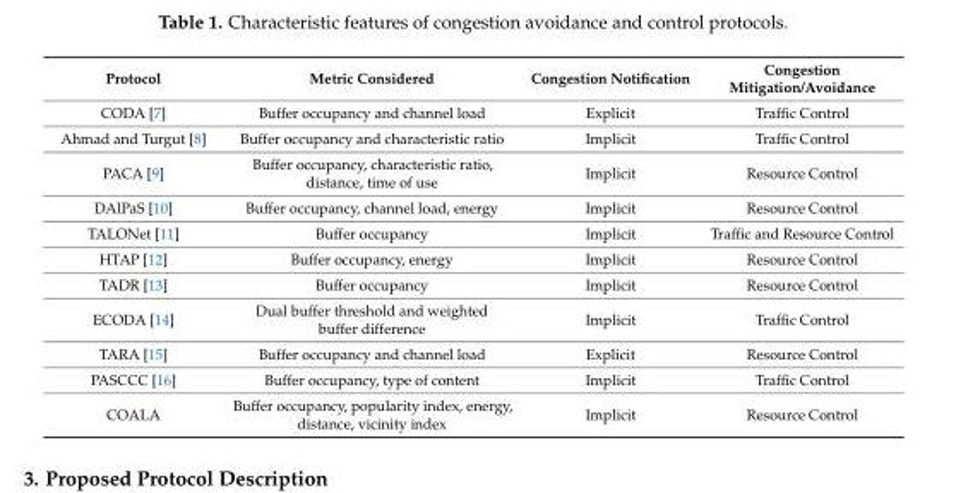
<table><thead><tr><td>Protocol</td><td>Metric Considered</td><td>Congestion Notification</td><td>Congestion Mitigation/Avoidance</td></tr></thead><tbody><tr><td>CODA [7]</td><td>Buffer occupancy and channel load</td><td>Explicit</td><td>Traffic Control</td></tr><tr><td>Ahmad and Turgut [8]</td><td>Buffer occupancy and characteristic ratio</td><td>Implicit</td><td>Traffic Control</td></tr><tr><td>PACA [9]</td><td>Buffer occupancy, characteristic ratio, distance, time of use</td><td>Implicit</td><td>Resource Control</td></tr><tr><td>DAlPaS [10]</td><td>Buffer occupancy, channel load, energy</td><td>Implicit</td><td>Resource Control</td></tr><tr><td>TALONet [11]</td><td>Buffer occupancy</td><td>Implicit</td><td>Traffic and Resource Control</td></tr><tr><td>HTAP [12]</td><td>Buffer occupancy, energy</td><td>Implicit</td><td>Resource Control</td></tr><tr><td>TADR [13]</td><td>Buffer occupancy</td><td>Implicit</td><td>Resource Control</td></tr><tr><td>ECODA [14]</td><td>Dual buffer threshold and weighted buffer difference</td><td>Implicit</td><td>Traffic Control</td></tr><tr><td>TARA [15]</td><td>Buffer occupancy and channel load</td><td>Explicit</td><td>Resource Control</td></tr><tr><td>PASCCC [16]</td><td>Buffer occupancy, type of content</td><td>Implicit</td><td>Traffic Control</td></tr><tr><td>COALA</td><td>Buffer occupancy, popularity index, energy, distance, vicinity index</td><td>Implicit</td><td>Resource Control</td></tr></tbody></table>